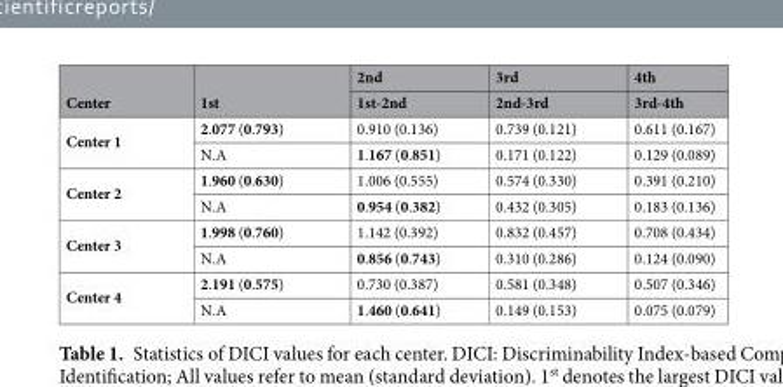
<table><thead><tr><td rowspan="2">Center</td><td rowspan="2">1st</td><td rowspan="2">2nd 1st-2nd</td><td rowspan="2">3rd 2nd-3rd</td><td rowspan="2">4th 3rd-4th</td></tr><tr></tr></thead><tbody><tr><td rowspan="2">Center 1</td><td>2.077 (0.793)</td><td>0.910 (0.136)</td><td>0.739 (0.121)</td><td>0.611 (0.167)</td></tr><tr><td>N.A</td><td>1.167 (0.851)</td><td>0.171 (0.122)</td><td>0.129 (0.089)</td></tr><tr><td rowspan="2">Center 2</td><td>1.960 (0.630)</td><td>1.006 (0.555)</td><td>0.574 (0.330)</td><td>0.391 (0.210)</td></tr><tr><td>N.A</td><td>0.954 (0.382)</td><td>0.432 (0.305)</td><td>0.183 (0.136)</td></tr><tr><td rowspan="2">Center 3</td><td>1.998 (0.760)</td><td>1.142 (0.392)</td><td>0.832 (0.457)</td><td>0.708 (0.434)</td></tr><tr><td>N.A</td><td>0.856 (0.743)</td><td>0.310 (0.286)</td><td>0.124 (0.090)</td></tr><tr><td rowspan="2">Center 4</td><td>2.191 (0.575)</td><td>0.730 (0.387)</td><td>0.581 (0.348)</td><td>0.507 (0.346)</td></tr><tr><td>N.A</td><td>1.460 (0.641)</td><td>0.149 (0.153)</td><td>0.075 (0.079)</td></tr></tbody></table>